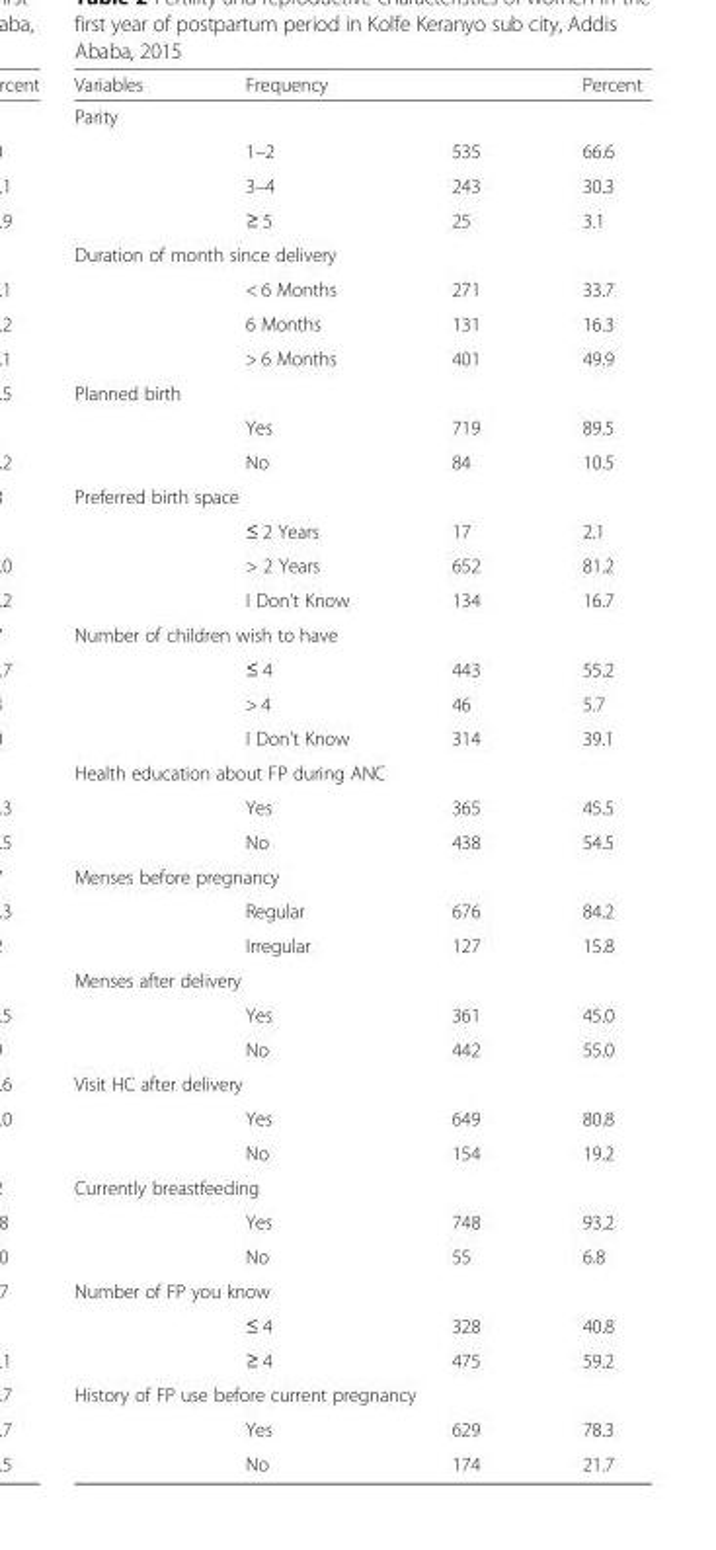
<table><thead><tr><td>Variables</td><td colspan="2">Frequency</td><td>Percent</td></tr><tr><td colspan="4">Parity</td></tr><tr><td></td><td>1–2</td><td>535</td><td>66.6</td></tr></thead><tbody><tr><td></td><td>3–4</td><td>243</td><td>30.3</td></tr><tr><td></td><td>≥ 5</td><td>25</td><td>3.1</td></tr><tr><td colspan="4">Duration of month since delivery</td></tr><tr><td></td><td>&lt; 6 Months</td><td>271</td><td>33.7</td></tr><tr><td></td><td>6 Months</td><td>131</td><td>16.3</td></tr><tr><td></td><td>&gt; 6 Months</td><td>401</td><td>49.9</td></tr><tr><td colspan="4">Planned birth</td></tr><tr><td></td><td>Yes</td><td>719</td><td>89.5</td></tr><tr><td></td><td>No</td><td>84</td><td>10.5</td></tr><tr><td colspan="4">Preferred birth space</td></tr><tr><td></td><td>≤ 2 Years</td><td>17</td><td>2.1</td></tr><tr><td></td><td>&gt; 2 Years</td><td>652</td><td>81.2</td></tr><tr><td></td><td>I Don’t Know</td><td>134</td><td>16.7</td></tr><tr><td colspan="4">Number of children wish to have</td></tr><tr><td></td><td>≤ 4</td><td>443</td><td>55.2</td></tr><tr><td></td><td>&gt; 4</td><td>46</td><td>5.7</td></tr><tr><td></td><td>I Don’t Know</td><td>314</td><td>39.1</td></tr><tr><td colspan="4">Health education about FP during ANC</td></tr><tr><td></td><td>Yes</td><td>365</td><td>45.5</td></tr><tr><td></td><td>No</td><td>438</td><td>54.5</td></tr><tr><td colspan="4">Menses before pregnancy</td></tr><tr><td></td><td>Regular</td><td>676</td><td>84.2</td></tr><tr><td></td><td>Irregular</td><td>127</td><td>15.8</td></tr><tr><td colspan="4">Menses after delivery</td></tr><tr><td></td><td>Yes</td><td>361</td><td>45.0</td></tr><tr><td></td><td>No</td><td>442</td><td>55.0</td></tr><tr><td colspan="4">Visit HC after delivery</td></tr><tr><td></td><td>Yes</td><td>649</td><td>80.8</td></tr><tr><td></td><td>No</td><td>154</td><td>19.2</td></tr><tr><td colspan="4">Currently breastfeeding</td></tr><tr><td></td><td>Yes</td><td>748</td><td>93.2</td></tr><tr><td></td><td>No</td><td>55</td><td>6.8</td></tr><tr><td colspan="4">Number of FP you know</td></tr><tr><td></td><td>≤ 4</td><td>328</td><td>40.8</td></tr><tr><td></td><td>≥ 4</td><td>475</td><td>59.2</td></tr><tr><td colspan="4">History of FP use before current pregnancy</td></tr><tr><td></td><td>Yes</td><td>629</td><td>78.3</td></tr><tr><td></td><td>No</td><td>174</td><td>21.7</td></tr></tbody></table>